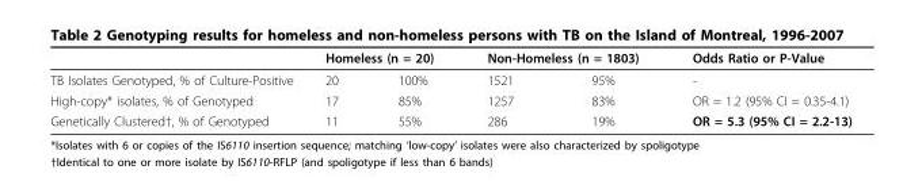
<table><thead><tr><td rowspan="2">TB Isolates Genotyped, % of Culture-Positive</td><td colspan="2">Homeless (n = 20)</td><td colspan="2">Non-Homeless (n = 1803)</td><td rowspan="2">Odds Ratio or P-Value -</td></tr><tr><td>20</td><td>100%</td><td>1521</td><td>95%</td></tr></thead><tbody><tr><td>High-copy* isolates, % of Genotyped</td><td>17</td><td>85%</td><td>1257</td><td>83%</td><td>OR = 1.2 (95% CI = 0.35-4.1)</td></tr><tr><td>Genetically Clustered†, % of Genotyped</td><td>11</td><td>55%</td><td>286</td><td>19%</td><td>OR = 5.3 (95% CI = 2.2-13)</td></tr></tbody></table>